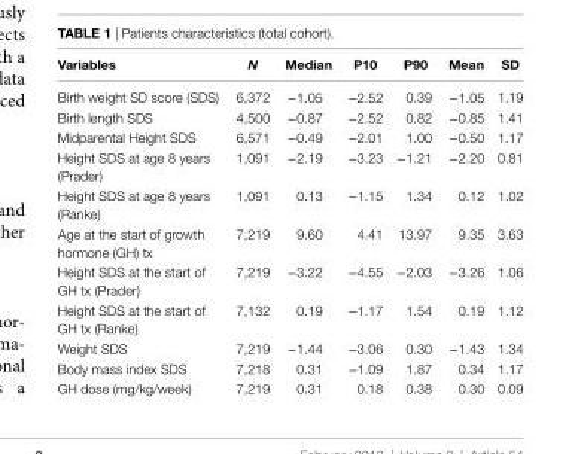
<table><thead><tr><td>Variables</td><td>N</td><td>Median</td><td>P10</td><td>P90</td><td>Mean</td><td>sD</td></tr></thead><tbody><tr><td>Birth weight SD score (SDS)</td><td>6,372</td><td>−1.05</td><td>−2.52</td><td>0.39</td><td>−1.05</td><td>1.19</td></tr><tr><td>Birth length SDS</td><td>4,500</td><td>−0.87</td><td>−2.52</td><td>0.82</td><td>−0.85</td><td>1.41</td></tr><tr><td>Midparental Height SDS</td><td>6,571</td><td>−0.49</td><td>−2.01</td><td>1.00</td><td>−0.50</td><td>1.17</td></tr><tr><td>Height SDS at age 8 years (Prader)</td><td>1,091</td><td>−2.19</td><td>−3.23</td><td>−1.21</td><td>−2.20</td><td>0.81</td></tr><tr><td>Height SDS at age 8 years (Ranke)</td><td>1,091</td><td>0.13</td><td>−1.15</td><td>1.34</td><td>0.12</td><td>1.02</td></tr><tr><td>Age at the start of growth hormone (GH) tx</td><td>7,219</td><td>9.60</td><td>4.41</td><td>13.97</td><td>9.35</td><td>3.63</td></tr><tr><td>Height SDS at the start of GH tx (Prader)</td><td>7,219</td><td>−3.22</td><td>−4.55</td><td>−2.03</td><td>−3.26</td><td>1.06</td></tr><tr><td>Height SDS at the start of GH tx (Ranke)</td><td>7,132</td><td>0.19</td><td>−1.17</td><td>1.54</td><td>0.19</td><td>1.12</td></tr><tr><td>Weight SDS</td><td>7,219</td><td>−1.44</td><td>−3.06</td><td>0.30</td><td>−1.43</td><td>1.34</td></tr><tr><td>Body mass index SDS</td><td>7,218</td><td>0.31</td><td>−1.09</td><td>1.87</td><td>0.34</td><td>1.17</td></tr><tr><td>GH dose (mg/kg/week)</td><td>7,219</td><td>0.31</td><td>0.18</td><td>0.38</td><td>0.30</td><td>0.09</td></tr></tbody></table>